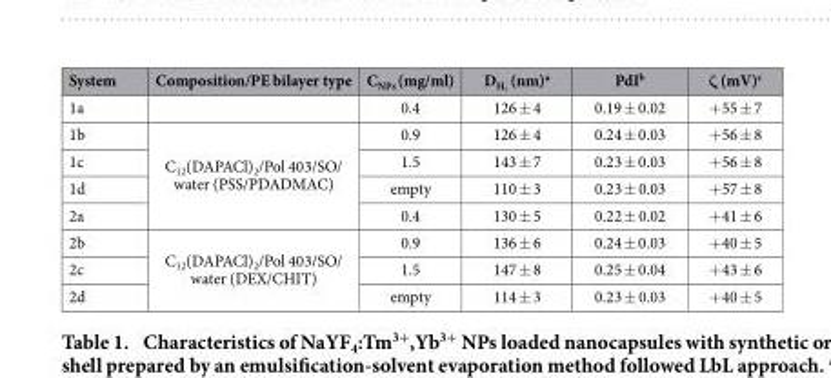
<table><thead><tr><td>System</td><td>Composition/PE bilayer type</td><td>C<sub>NPs</sub> (mg/ml)</td><td>D<sub>H,</sub> (nm)<sup>a</sup></td><td>PdI<sup>b</sup></td><td>ζ (mV)<sup>c</sup></td></tr></thead><tbody><tr><td>1a</td><td></td><td>0.4</td><td>126 ± 4</td><td>0.19 ± 0.02</td><td>+ 55 ± 7</td></tr><tr><td>1b</td><td rowspan="4">C<sub>12</sub>(DAPACl)<sub>2</sub>/Pol 403/SO/ water (PSS/PDADMAC)</td><td>0.9</td><td>126 ± 4</td><td>0.24 ± 0.03</td><td>+ 56 ± 8</td></tr><tr><td>1c</td><td>1.5</td><td>143 ± 7</td><td>0.23 ± 0.03</td><td>+ 56 ± 8</td></tr><tr><td>1d</td><td>empty</td><td>110 ± 3</td><td>0.23 ± 0.03</td><td>+ 57 ± 8</td></tr><tr><td>2a</td><td>0.4</td><td>130 ± 5</td><td>0.22 ± 0.02</td><td>+ 41 ± 6</td></tr><tr><td>2b</td><td rowspan="3">C<sub>12</sub>(DAPACl)<sub>2</sub>/Pol 403/SO/ water (DEX/CHIT)</td><td>0.9</td><td>136 ± 6</td><td>0.24 ± 0.03</td><td>+ 40 ± 5</td></tr><tr><td>2c</td><td>1.5</td><td>147 ± 8</td><td>0.25 ± 0.04</td><td>+ 43 ± 6</td></tr><tr><td>2d</td><td>empty</td><td>114 ± 3</td><td>0.23 ± 0.03</td><td>+ 40 ± 5</td></tr></tbody></table>